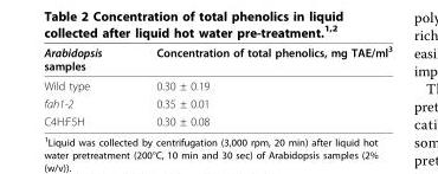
<table><thead><tr><td>Arabidopsis samples</td><td>Concentration of total phenolics, mg TAE/ml<sup>3</sup></td></tr></thead><tbody><tr><td>Wild type</td><td>0.30 ± 0.19</td></tr><tr><td>fah1-2</td><td>0.35 ± 0.01</td></tr><tr><td>C4H:F5H</td><td>0.30 ± 0.08</td></tr></tbody></table>